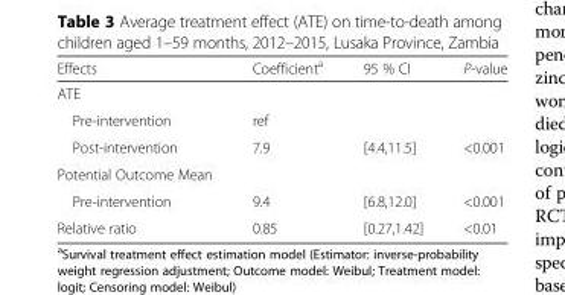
<table><thead><tr><td>Effects</td><td>Coefficient<sup>a</sup></td><td>95 % CI</td><td>P-value</td></tr></thead><tbody><tr><td colspan="4">ATE</td></tr><tr><td>Pre-intervention</td><td>ref</td><td></td><td></td></tr><tr><td>Post-intervention</td><td>7.9</td><td>[4.4,11.5]</td><td>&lt;0.001</td></tr><tr><td colspan="4">Potential Outcome Mean</td></tr><tr><td>Pre-intervention</td><td>9.4</td><td>[6.8,12.0]</td><td>&lt;0.001</td></tr><tr><td>Relative ratio</td><td>0.85</td><td>[0.27,1.42]</td><td>&lt;0.01</td></tr></tbody></table>